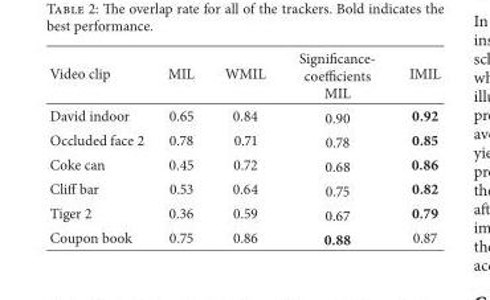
<table><thead><tr><td>Video clip</td><td>MIL</td><td>WMIL</td><td>Significance- coefficients MIL</td><td>IMIL</td></tr></thead><tbody><tr><td>David indoor</td><td>0.65</td><td>0.84</td><td>0.90</td><td>0.92</td></tr><tr><td>Occluded face 2</td><td>0.78</td><td>0.71</td><td>0.78</td><td>0.85</td></tr><tr><td>Coke can</td><td>0.45</td><td>0.72</td><td>0.68</td><td>0.86</td></tr><tr><td>Cliff bar</td><td>0.53</td><td>0.64</td><td>0.75</td><td>0.82</td></tr><tr><td>Tiger 2</td><td>0.36</td><td>0.59</td><td>0.67</td><td>0.79</td></tr><tr><td>Coupon book</td><td>0.75</td><td>0.86</td><td>0.88</td><td>0.87</td></tr></tbody></table>